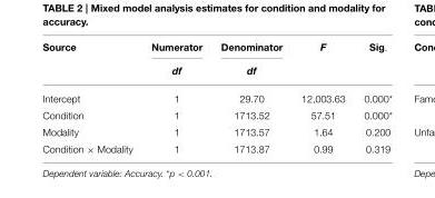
<table><thead><tr><td rowspan="2">Source</td><td rowspan="2">Numerator df</td><td rowspan="2">Denominator df</td><td rowspan="2">F</td><td rowspan="2">Sig.</td></tr><tr></tr></thead><tbody><tr><td>Intercept</td><td>1</td><td>29.70</td><td>12,003.63</td><td>0.000*</td></tr><tr><td>Condition</td><td>1</td><td>1713.52</td><td>57.51</td><td>0.000*</td></tr><tr><td>Modality</td><td>1</td><td>1713.57</td><td>1.64</td><td>0.200</td></tr><tr><td>Condition × Modality</td><td>1</td><td>1713.87</td><td>0.99</td><td>0.319</td></tr></tbody></table>